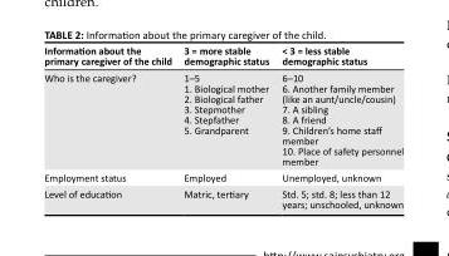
<table><thead><tr><td>Information about the primary caregiver of the child</td><td>3 = more stable demographic status</td><td>&lt; 3 = less stable demographic status</td></tr></thead><tbody><tr><td>Who is the caregiver?</td><td>1–5 1. Biological mother 2. Biological father 3. Stepmother 4. Stepfather 5. Grandparent</td><td>6–10 6. Another family member (like an aunt/uncle/cousin) 7. A sibling 8. A friend 9. Children’s home staff member 10. Place of safety personnel member</td></tr><tr><td>Employment status</td><td>Employed</td><td>Unemployed, unknown</td></tr><tr><td>Level of education</td><td>Matric, tertiary</td><td>Std. 5; std. 8; less than 12 years; unschooled, unknown</td></tr></tbody></table>